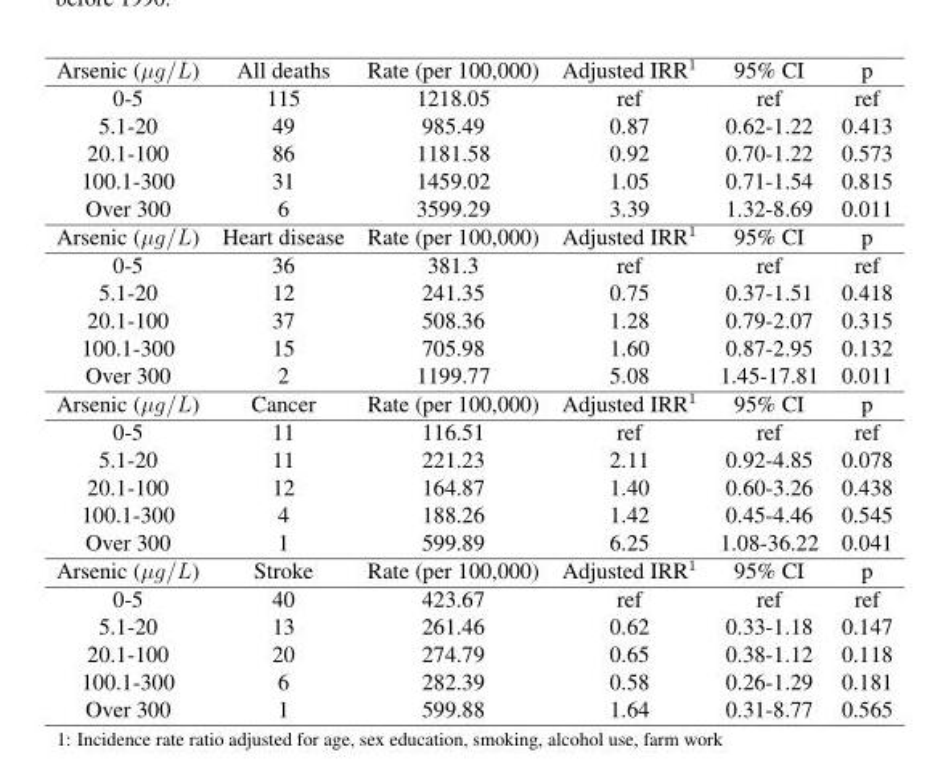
<table><tbody><tr><td>Arsenic (µg/L)</td><td>All deaths</td><td>Rate (per 100,000)</td><td>Adjusted IRR<sup>1</sup></td><td>95% CI</td><td>p</td></tr><tr><td>0-5</td><td>115</td><td>1218.05</td><td>ref</td><td>ref</td><td>ref</td></tr><tr><td>5.1-20</td><td>49</td><td>985.49</td><td>0.87</td><td>0.62-1.22</td><td>0.413</td></tr><tr><td>20.1-100</td><td>86</td><td>1181.58</td><td>0.92</td><td>0.70-1.22</td><td>0.573</td></tr><tr><td>100.1-300</td><td>31</td><td>1459.02</td><td>1.05</td><td>0.71-1.54</td><td>0.815</td></tr><tr><td>Over 300</td><td>6</td><td>3599.29</td><td>3.39</td><td>1.32-8.69</td><td>0.011</td></tr><tr><td>Arsenic (µg/L)</td><td>Heart disease</td><td>Rate (per 100,000)</td><td>Adjusted IRR<sup>1</sup></td><td>95% CI</td><td>p</td></tr><tr><td>0-5</td><td>36</td><td>381.3</td><td>ref</td><td>ref</td><td>ref</td></tr><tr><td>5.1-20</td><td>12</td><td>241.35</td><td>0.75</td><td>0.37-1.51</td><td>0.418</td></tr><tr><td>20.1-100</td><td>37</td><td>508.36</td><td>1.28</td><td>0.79-2.07</td><td>0.315</td></tr><tr><td>100.1-300</td><td>15</td><td>705.98</td><td>1.60</td><td>0.87-2.95</td><td>0.132</td></tr><tr><td>Over 300</td><td>2</td><td>1199.77</td><td>5.08</td><td>1.45-17.81</td><td>0.011</td></tr><tr><td>Arsenic (µg/L)</td><td>Cancer</td><td>Rate (per 100,000)</td><td>Adjusted IRR<sup>1</sup></td><td>95% CI</td><td>p</td></tr><tr><td>0-5</td><td>11</td><td>116.51</td><td>ref</td><td>ref</td><td>ref</td></tr><tr><td>5.1-20</td><td>11</td><td>221.23</td><td>2.11</td><td>0.92-4.85</td><td>0.078</td></tr><tr><td>20.1-100</td><td>12</td><td>164.87</td><td>1.40</td><td>0.60-3.26</td><td>0.438</td></tr><tr><td>100.1-300</td><td>4</td><td>188.26</td><td>1.42</td><td>0.45-4.46</td><td>0.545</td></tr><tr><td>Over 300</td><td>1</td><td>599.89</td><td>6.25</td><td>1.08-36.22</td><td>0.041</td></tr><tr><td>Arsenic (µg/L)</td><td>Stroke</td><td>Rate (per 100,000)</td><td>Adjusted IRR<sup>1</sup></td><td>95% CI</td><td>p</td></tr><tr><td>0-5</td><td>40</td><td>423.67</td><td>ref</td><td>ref</td><td>ref</td></tr><tr><td>5.1-20</td><td>13</td><td>261.46</td><td>0.62</td><td>0.33-1.18</td><td>0.147</td></tr><tr><td>20.1-100</td><td>20</td><td>274.79</td><td>0.65</td><td>0.38-1.12</td><td>0.118</td></tr><tr><td>100.1-300</td><td>6</td><td>282.39</td><td>0.58</td><td>0.26-1.29</td><td>0.181</td></tr><tr><td>Over 300</td><td>1</td><td>599.88</td><td>1.64</td><td>0.31-8.77</td><td>0.565</td></tr></tbody></table>